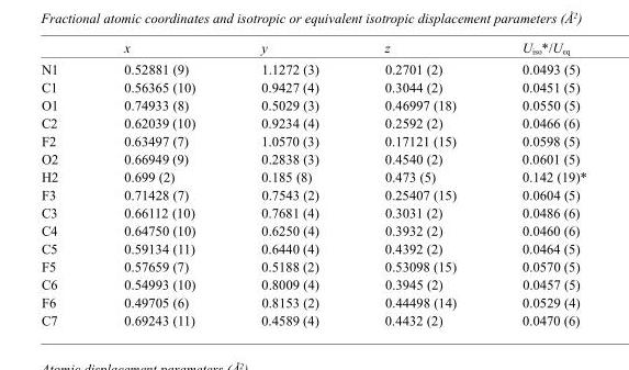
<table><thead><tr><td></td><td>x</td><td>y</td><td>z</td><td>U<sub>iso</sub>*/U<sub>eq</sub></td></tr></thead><tbody><tr><td>N1</td><td>0.52881 (9)</td><td>1.1272 (3)</td><td>0.2701 (2)</td><td>0.0493 (5)</td></tr><tr><td>C1</td><td>0.56365 (10)</td><td>0.9427 (4)</td><td>0.3044 (2)</td><td>0.0451 (5)</td></tr><tr><td>O1</td><td>0.74933 (8)</td><td>0.5029 (3)</td><td>0.46997 (18)</td><td>0.0550 (5)</td></tr><tr><td>C2</td><td>0.62039 (10)</td><td>0.9234 (4)</td><td>0.2592 (2)</td><td>0.0466 (6)</td></tr><tr><td>F2</td><td>0.63497 (7)</td><td>1.0570 (3)</td><td>0.17121 (15)</td><td>0.0598 (5)</td></tr><tr><td>O2</td><td>0.66949 (9)</td><td>0.2838 (3)</td><td>0.4540 (2)</td><td>0.0601 (5)</td></tr><tr><td>H2</td><td>0.699 (2)</td><td>0.185 (8)</td><td>0.473 (5)</td><td>0.142 (19)*</td></tr><tr><td>F3</td><td>0.71428 (7)</td><td>0.7543 (2)</td><td>0.25407 (15)</td><td>0.0604 (5)</td></tr><tr><td>C3</td><td>0.66112 (10)</td><td>0.7681 (4)</td><td>0.3031 (2)</td><td>0.0486 (6)</td></tr><tr><td>C4</td><td>0.64750 (10)</td><td>0.6250 (4)</td><td>0.3932 (2)</td><td>0.0460 (6)</td></tr><tr><td>C5</td><td>0.59134 (11)</td><td>0.6440 (4)</td><td>0.4392 (2)</td><td>0.0464 (5)</td></tr><tr><td>F5</td><td>0.57659 (7)</td><td>0.5188 (2)</td><td>0.53098 (15)</td><td>0.0570 (5)</td></tr><tr><td>C6</td><td>0.54993 (10)</td><td>0.8009 (4)</td><td>0.3945 (2)</td><td>0.0457 (5)</td></tr><tr><td>F6</td><td>0.49705 (6)</td><td>0.8153 (2)</td><td>0.44498 (14)</td><td>0.0529 (4)</td></tr><tr><td>C7</td><td>0.69243 (11)</td><td>0.4589 (4)</td><td>0.4432 (2)</td><td>0.0470 (6)</td></tr></tbody></table>